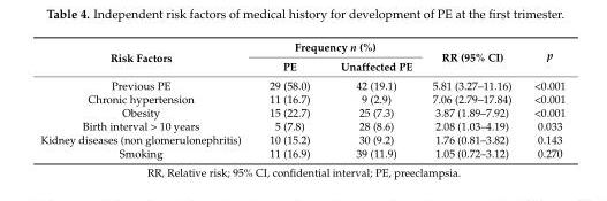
<table><thead><tr><td rowspan="2">Risk Factors</td><td colspan="2">Frequency n (%)</td><td rowspan="2">RR (95% CI)</td><td rowspan="2">p</td></tr><tr><td>PE</td><td>Unaffected PE</td></tr></thead><tbody><tr><td>Previous PE</td><td>29 (58.0)</td><td>42 (19.1)</td><td>5.81 (3.27–11.16)</td><td>&lt;0.001</td></tr><tr><td>Chronic hypertension</td><td>11 (16.7)</td><td>9 (2.9)</td><td>7.06 (2.79–17.84)</td><td>&lt;0.001</td></tr><tr><td>Obesity</td><td>15 (22.7)</td><td>25 (7.3)</td><td>3.87 (1.89–7.92)</td><td>&lt;0.001</td></tr><tr><td>Birth interval &gt; 10 years</td><td>5 (7.8)</td><td>28 (8.6)</td><td>2.08 (1.03–4.19)</td><td>0.033</td></tr><tr><td>Kidney diseases (non glomerulonephritis)</td><td>10 (15.2)</td><td>30 (9.2)</td><td>1.76 (0.81–3.82)</td><td>0.143</td></tr><tr><td>Smoking</td><td>11 (16.9)</td><td>39 (11.9)</td><td>1.05 (0.72–3.12)</td><td>0.270</td></tr></tbody></table>